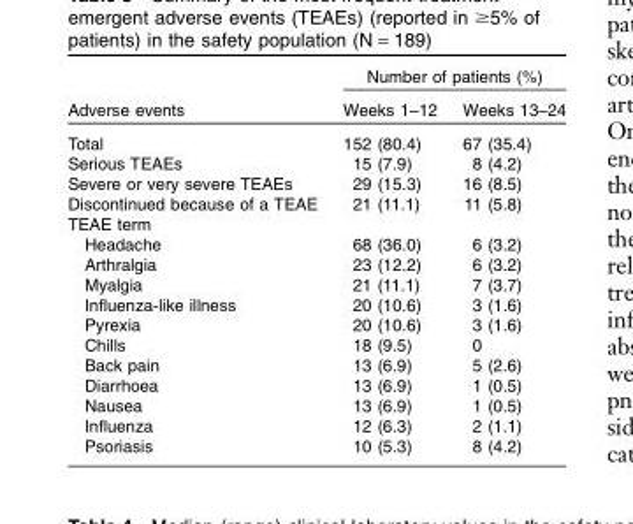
<table><thead><tr><td rowspan="2">Adverse events</td><td colspan="2">Number of patients (%)</td></tr><tr><td>Weeks 1–12</td><td>Weeks 13–24</td></tr></thead><tbody><tr><td>Total</td><td>152 (80.4)</td><td>67 (35.4)</td></tr><tr><td>Serious TEAEs</td><td>15 (7.9)</td><td>8 (4.2)</td></tr><tr><td>Severe or very severe TEAEs</td><td>29 (15.3)</td><td>16 (8.5)</td></tr><tr><td>Discontinued because of a TEAE</td><td>21 (11.1)</td><td>11 (5.8)</td></tr><tr><td colspan="3">TEAE term</td></tr><tr><td>Headache</td><td>68 (36.0)</td><td>6 (3.2)</td></tr><tr><td>Arthralgia</td><td>23 (12.2)</td><td>6 (3.2)</td></tr><tr><td>Myalgia</td><td>21 (11.1)</td><td>7 (3.7)</td></tr><tr><td>Influenza-like illness</td><td>20 (10.6)</td><td>3 (1.6)</td></tr><tr><td>Pyrexia</td><td>20 (10.6)</td><td>3 (1.6)</td></tr><tr><td>Chills</td><td>18 (9.5)</td><td>0</td></tr><tr><td>Back pain</td><td>13 (6.9)</td><td>5 (2.6)</td></tr><tr><td>Diarrhoea</td><td>13 (6.9)</td><td>1 (0.5)</td></tr><tr><td>Nausea</td><td>13 (6.9)</td><td>1 (0.5)</td></tr><tr><td>Influenza</td><td>12 (6.3)</td><td>2 (1.1)</td></tr><tr><td>Psoriasis</td><td>10 (5.3)</td><td>8 (4.2)</td></tr></tbody></table>